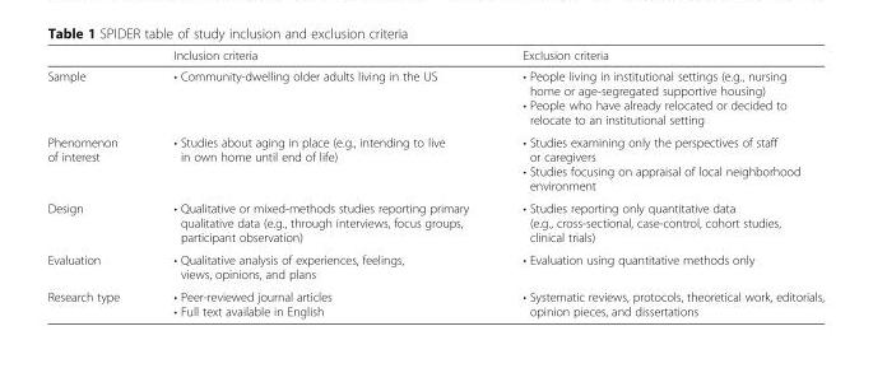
<table><thead><tr><td></td><td>Inclusion criteria</td><td>Exclusion criteria</td></tr></thead><tbody><tr><td>Sample</td><td>• Community-dwelling older adults living in the US</td><td>• People living in institutional settings (e.g., nursing home or age-segregated supportive housing) • People who have already relocated or decided to relocate to an institutional setting</td></tr><tr><td>Phenomenon of interest</td><td>• Studies about aging in place (e.g., intending to live in own home until end of life)</td><td>• Studies examining only the perspectives of staff or caregivers • Studies focusing on appraisal of local neighborhood environment</td></tr><tr><td>Design</td><td>• Qualitative or mixed-methods studies reporting primary qualitative data (e.g., through interviews, focus groups, participant observation)</td><td>• Studies reporting only quantitative data (e.g., cross-sectional, case-control, cohort studies, clinical trials)</td></tr><tr><td>Evaluation</td><td>• Qualitative analysis of experiences, feelings, views, opinions, and plans</td><td>• Evaluation using quantitative methods only</td></tr><tr><td>Research type</td><td>• Peer-reviewed journal articles • Full text available in English</td><td>• Systematic reviews, protocols, theoretical work, editorials, opinion pieces, and dissertations</td></tr></tbody></table>